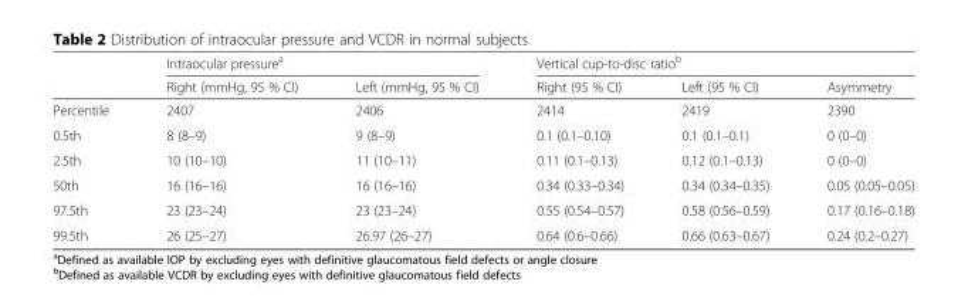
<table><thead><tr><td rowspan="2"></td><td colspan="2">Intraocular pressure<sup>a</sup></td><td colspan="3">Vertical cup-to-disc ratio<sup>b</sup></td></tr><tr><td>Right (mmHg, 95 % CI)</td><td>Left (mmHg, 95 % CI)</td><td>Right (95 % CI)</td><td>Left (95 % CI)</td><td>Asymmetry</td></tr></thead><tbody><tr><td>Percentile</td><td>2407</td><td>2406</td><td>2414</td><td>2419</td><td>2390</td></tr><tr><td>0.5th</td><td>8 (8–9)</td><td>9 (8–9)</td><td>0.1 (0.1–0.10)</td><td>0.1 (0.1–0.1)</td><td>0 (0–0)</td></tr><tr><td>2.5th</td><td>10 (10–10)</td><td>11 (10–11)</td><td>0.11 (0.1–0.13)</td><td>0.12 (0.1–0.13)</td><td>0 (0–0)</td></tr><tr><td>50th</td><td>16 (16–16)</td><td>16 (16–16)</td><td>0.34 (0.33–0.34)</td><td>0.34 (0.34–0.35)</td><td>0.05 (0.05–0.05)</td></tr><tr><td>97.5th</td><td>23 (23–24)</td><td>23 (23–24)</td><td>0.55 (0.54–0.57)</td><td>0.58 (0.56–0.59)</td><td>0.17 (0.16–0.18)</td></tr><tr><td>99.5th</td><td>26 (25–27)</td><td>26.97 (26–27)</td><td>0.64 (0.6–0.66)</td><td>0.66 (0.63–0.67)</td><td>0.24 (0.2–0.27)</td></tr></tbody></table>